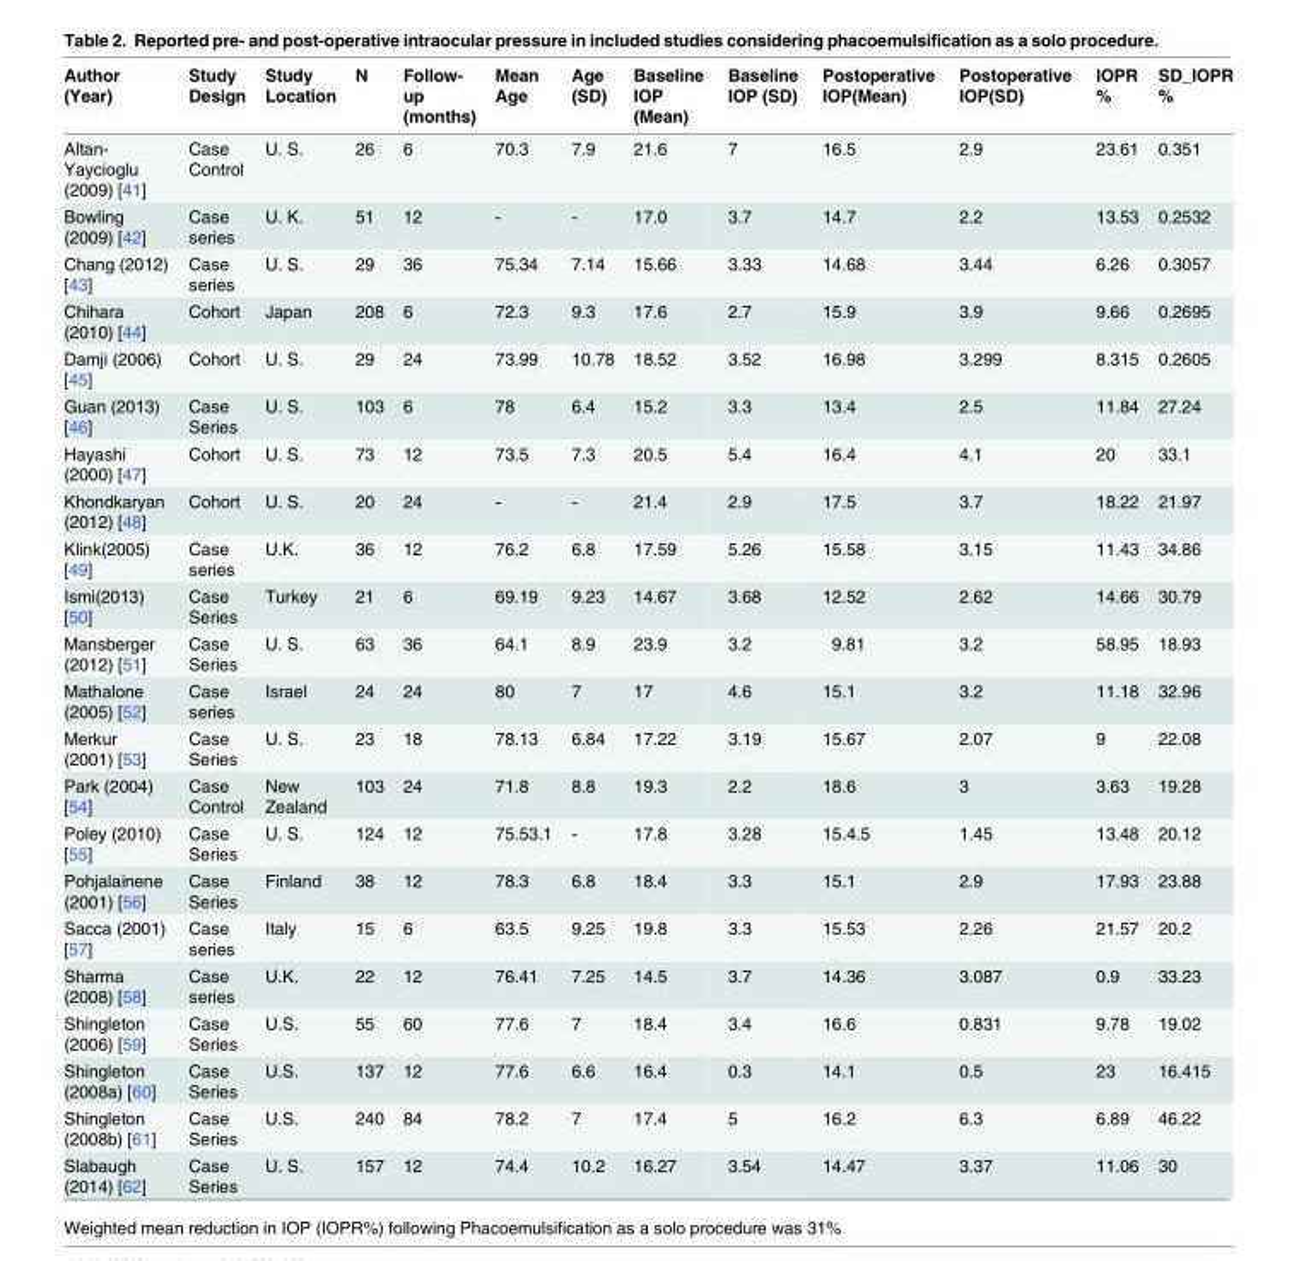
<table><thead><tr><td>Author (Year)</td><td>Study Design</td><td>Study Location</td><td>N</td><td>Follow- up (months)</td><td>Mean Age</td><td>Age (SD)</td><td>Baseline IOP (Mean)</td><td>Baseline IOP (SD)</td><td>Postoperative IOP(Mean)</td><td>Postoperative IOP(SD)</td><td>IOPR %</td><td>SD_IOPR %</td></tr></thead><tbody><tr><td>Altan- Yaycioglu (2009) [41]</td><td>Case Control</td><td>U. S.</td><td>26</td><td>6</td><td>70.3</td><td>7.9</td><td>21.6</td><td>7</td><td>16.5</td><td>2.9</td><td>23.61</td><td>0.351</td></tr><tr><td>Bowling (2009) [42]</td><td>Case series</td><td>U. K.</td><td>51</td><td>12</td><td>-</td><td>-</td><td>17.0</td><td>3.7</td><td>14.7</td><td>2.2</td><td>13.53</td><td>0.2532</td></tr><tr><td>Chang (2012) [43]</td><td>Case series</td><td>U. S.</td><td>29</td><td>36</td><td>75.34</td><td>7.14</td><td>15.66</td><td>3.33</td><td>14.68</td><td>3.44</td><td>6.26</td><td>0.3057</td></tr><tr><td>Chihara (2010) [44]</td><td>Cohort</td><td>Japan</td><td>208</td><td>6</td><td>72.3</td><td>9.3</td><td>17.6</td><td>2.7</td><td>15.9</td><td>3.9</td><td>9.66</td><td>0.2695</td></tr><tr><td>Damji (2006) [45]</td><td>Cohort</td><td>U. S.</td><td>29</td><td>24</td><td>73.99</td><td>10.78</td><td>18.52</td><td>3.52</td><td>16.98</td><td>3.299</td><td>8.315</td><td>0.2605</td></tr><tr><td>Guan (2013) [46]</td><td>Case Series</td><td>U. S.</td><td>103</td><td>6</td><td>78</td><td>6.4</td><td>15.2</td><td>3.3</td><td>13.4</td><td>2.5</td><td>11.84</td><td>27.24</td></tr><tr><td>Hayashi (2000) [47]</td><td>Cohort</td><td>U. S.</td><td>73</td><td>12</td><td>73.5</td><td>7.3</td><td>20.5</td><td>5.4</td><td>16.4</td><td>4.1</td><td>20</td><td>33.1</td></tr><tr><td>Khondkaryan (2012) [48]</td><td>Cohort</td><td>U. S.</td><td>20</td><td>24</td><td>-</td><td>-</td><td>21.4</td><td>2.9</td><td>17.5</td><td>3.7</td><td>18.22</td><td>21.97</td></tr><tr><td>Klink(2005) [49]</td><td>Case series</td><td>U.K.</td><td>36</td><td>12</td><td>76.2</td><td>6.8</td><td>17.59</td><td>5.26</td><td>15.58</td><td>3.15</td><td>11.43</td><td>34.86</td></tr><tr><td>Ismi(2013) [50]</td><td>Case Series</td><td>Turkey</td><td>21</td><td>6</td><td>69.19</td><td>9.23</td><td>14.67</td><td>3.68</td><td>12.52</td><td>2.62</td><td>14.66</td><td>30.79</td></tr><tr><td>Mansberger (2012) [51]</td><td>Case Series</td><td>U. S.</td><td>63</td><td>36</td><td>64.1</td><td>8.9</td><td>23.9</td><td>3.2</td><td>9.81</td><td>3.2</td><td>58.95</td><td>18.93</td></tr><tr><td>Mathalone (2005) [52]</td><td>Case series</td><td>Israel</td><td>24</td><td>24</td><td>80</td><td>7</td><td>17</td><td>4.6</td><td>15.1</td><td>3.2</td><td>11.18</td><td>32.96</td></tr><tr><td>Merkur (2001) [53]</td><td>Case Series</td><td>U. S.</td><td>23</td><td>18</td><td>78.13</td><td>6.84</td><td>17.22</td><td>3.19</td><td>15.67</td><td>2.07</td><td>9</td><td>22.08</td></tr><tr><td>Park (2004) [54]</td><td>Case Control</td><td>New Zealand</td><td>103</td><td>24</td><td>71.8</td><td>8.8</td><td>19.3</td><td>2.2</td><td>18.6</td><td>3</td><td>3.63</td><td>19.28</td></tr><tr><td>Poley (2010) [55]</td><td>Case Series</td><td>U. S.</td><td>124</td><td>12</td><td>75.53.1</td><td>-</td><td>17.8</td><td>3.28</td><td>15.4.5</td><td>1.45</td><td>13.48</td><td>20.12</td></tr><tr><td>Pohjalainene (2001) [56]</td><td>Case Series</td><td>Finland</td><td>38</td><td>12</td><td>78.3</td><td>6.8</td><td>18.4</td><td>3.3</td><td>15.1</td><td>2.9</td><td>17.93</td><td>23.88</td></tr><tr><td>Sacca (2001) [57]</td><td>Case series</td><td>Italy</td><td>15</td><td>6</td><td>63.5</td><td>9.25</td><td>19.8</td><td>3.3</td><td>15.53</td><td>2.26</td><td>21.57</td><td>20.2</td></tr><tr><td>Sharma (2008) [58]</td><td>Case series</td><td>U.K.</td><td>22</td><td>12</td><td>76.41</td><td>7.25</td><td>14.5</td><td>3.7</td><td>14.36</td><td>3.087</td><td>0.9</td><td>33.23</td></tr><tr><td>Shingleton (2006) [59]</td><td>Case Series</td><td>U.S.</td><td>55</td><td>60</td><td>77.6</td><td>7</td><td>18.4</td><td>3.4</td><td>16.6</td><td>0.831</td><td>9.78</td><td>19.02</td></tr><tr><td>Shingleton (2008a) [60]</td><td>Case Series</td><td>U.S.</td><td>137</td><td>12</td><td>77.6</td><td>6.6</td><td>16.4</td><td>0.3</td><td>14.1</td><td>0.5</td><td>23</td><td>16.415</td></tr><tr><td>Shingleton (2008b) [61]</td><td>Case Series</td><td>U.S.</td><td>240</td><td>84</td><td>78.2</td><td>7</td><td>17.4</td><td>5</td><td>16.2</td><td>6.3</td><td>6.89</td><td>46.22</td></tr><tr><td>Slabaugh (2014) [62]</td><td>Case Series</td><td>U. S.</td><td>157</td><td>12</td><td>74.4</td><td>10.2</td><td>16.27</td><td>3.54</td><td>14.47</td><td>3.37</td><td>11.06</td><td>30</td></tr></tbody></table>